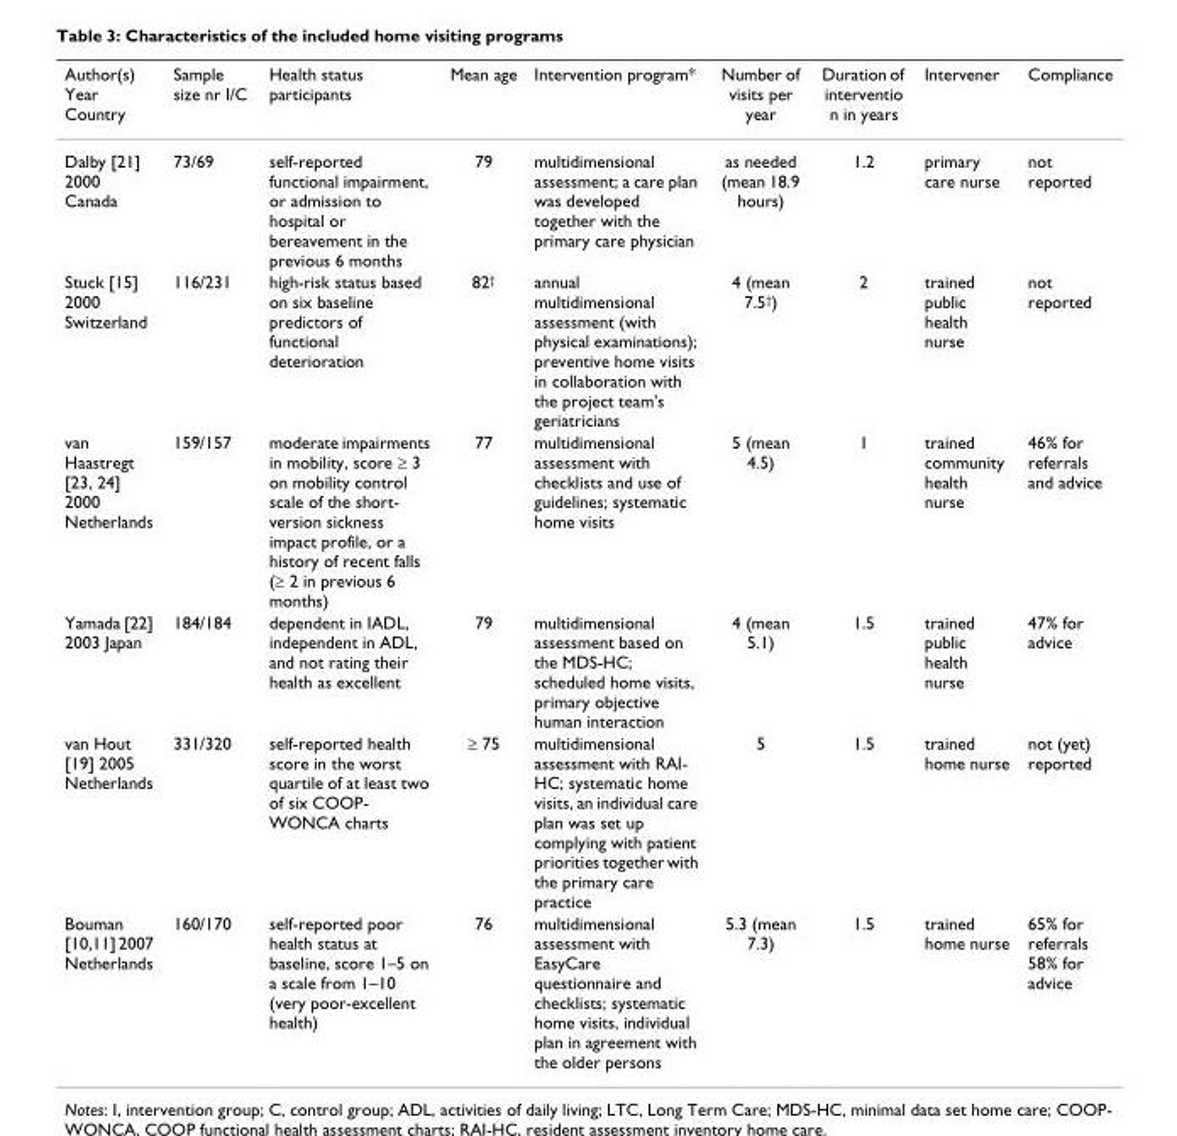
<table><thead><tr><td>Author(s) Year Country</td><td>Sample size nr I/C</td><td>Health status participants</td><td>Mean age</td><td>Intervention program*</td><td>Number of visits per year</td><td>Duration of interventio n in years</td><td>Intervener</td><td>Compliance</td></tr></thead><tbody><tr><td>Dalby [21] 2000 Canada</td><td>73/69</td><td>self-reported functional impairment, or admission to hospital or bereavement in the previous 6 months</td><td>79</td><td>multidimensional assessment; a care plan was developed together with the primary care physician</td><td>as needed (mean 18.9 hours)</td><td>1.2</td><td>primary care nurse</td><td>not reported</td></tr><tr><td>Stuck [15] 2000 Switzerland</td><td>116/231</td><td>high-risk status based on six baseline predictors of functional deterioration</td><td>82<sup>†</sup></td><td>annual multidimensional assessment (with physical examinations); preventive home visits in collaboration with the project team&#x27;s geriatricians</td><td>4 (mean 7.5<sup>†</sup>)</td><td>2</td><td>trained public health nurse</td><td>not reported</td></tr><tr><td>van Haastregt [23, 24] 2000 Netherlands</td><td>159/157</td><td>moderate impairments in mobility, score ≥ 3 on mobility control scale of the short- version sickness impact profile, or a history of recent falls (≥ 2 in previous 6 months)</td><td>77</td><td>multidimensional assessment with checklists and use of guidelines; systematic home visits</td><td>5 (mean 4.5)</td><td>1</td><td>trained community health nurse</td><td>46% for referrals and advice</td></tr><tr><td>Yamada [22] 2003 Japan</td><td>184/184</td><td>dependent in IADL, independent in ADL, and not rating their health as excellent</td><td>79</td><td>multidimensional assessment based on the MDS-HC; scheduled home visits, primary objective human interaction</td><td>4 (mean 5.1)</td><td>1.5</td><td>trained public health nurse</td><td>47% for advice</td></tr><tr><td>van Hout [19] 2005 Netherlands</td><td>331/320</td><td>self-reported health score in the worst quartile of at least two of six COOP- WONCA charts</td><td>≥ 75</td><td>multidimensional assessment with RAI- HC; systematic home visits, an individual care plan was set up complying with patient priorities together with the primary care practice</td><td>5</td><td>1.5</td><td>trained home nurse</td><td>not (yet) reported</td></tr><tr><td>Bouman [10,11] 2007 Netherlands</td><td>160/170</td><td>self-reported poor health status at baseline, score 1–5 on a scale from 1–10 (very poor-excellent health)</td><td>76</td><td>multidimensional assessment with EasyCare questionnaire and checklists; systematic home visits, individual plan in agreement with the older persons</td><td>5.3 (mean 7.3)</td><td>1.5</td><td>trained home nurse</td><td>65% for referrals 58% for advice</td></tr></tbody></table>